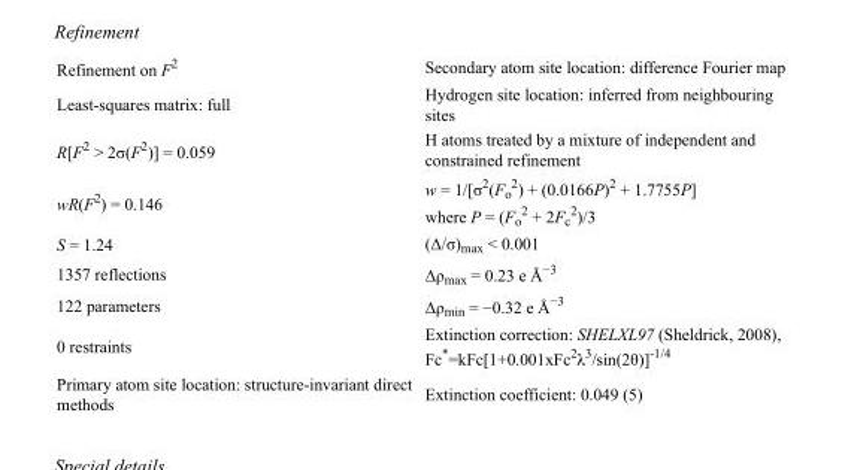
<table><tbody><tr><td>Refinement on F<sup>2</sup></td><td>Secondary atom site location: difference Fourier map</td></tr><tr><td>Least-squares matrix: full</td><td>Hydrogen site location: inferred from neighbouring sites</td></tr><tr><td>R[F<sup>2</sup> &gt; 2σ(F<sup>2</sup>)] = 0.059</td><td>H atoms treated by a mixture of independent and constrained refinement</td></tr><tr><td>wR(F<sup>2</sup>) = 0.146</td><td>w = 1/[σ<sup>2</sup>(F<sub>o</sub> <sup>2</sup>) + (0.0166P)<sup>2</sup> + 1.7755P] where P = (F<sub>o</sub> <sup>2</sup> + 2F<sub>c</sub> <sup>2</sup>)/3</td></tr><tr><td>S = 1.24</td><td>(Δ/σ)<sub>max</sub> &lt; 0.001</td></tr><tr><td>1357 reflections</td><td>Δρ<sub>max</sub> = 0.23 e Å<sup>−3</sup></td></tr><tr><td>122 parameters</td><td>Δρ<sub>min</sub> = −0.32 e Å<sup>−3</sup></td></tr><tr><td>0 restraints</td><td>Extinction correction: SHELXL97 (Sheldrick, 2008), Fc*=kFc[1+0.001xFc<sup>2</sup>λ<sup>3</sup>/sin(2θ)]<sup>-1/4</sup></td></tr><tr><td>Primary atom site location: structure-invariant direct methods</td><td>Extinction coefficient: 0.049 (5)</td></tr></tbody></table>